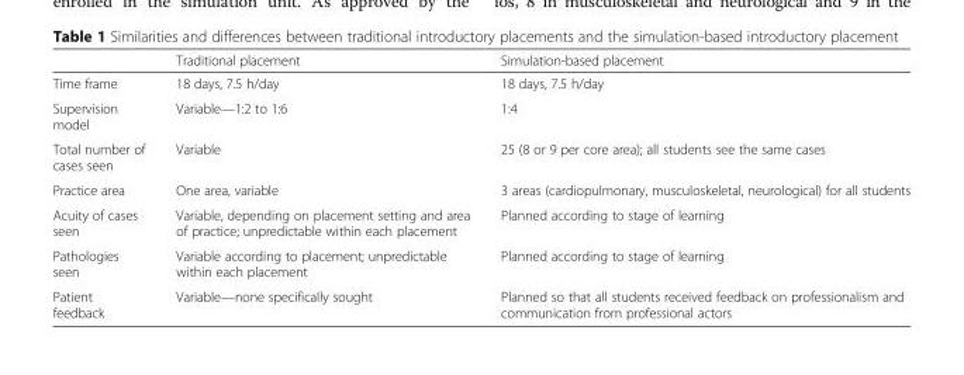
<table><thead><tr><td></td><td>Traditional placement</td><td>Simulation-based placement</td></tr></thead><tbody><tr><td>Time frame</td><td>18 days, 7.5 h/day</td><td>18 days, 7.5 h/day</td></tr><tr><td>Supervision model</td><td>Variable—1:2 to 1:6</td><td>1:4</td></tr><tr><td>Total number of cases seen</td><td>Variable</td><td>25 (8 or 9 per core area); all students see the same cases</td></tr><tr><td>Practice area</td><td>One area, variable</td><td>3 areas (cardiopulmonary, musculoskeletal, neurological) for all students</td></tr><tr><td>Acuity of cases seen</td><td>Variable, depending on placement setting and area of practice; unpredictable within each placement</td><td>Planned according to stage of learning</td></tr><tr><td>Pathologies seen</td><td>Variable according to placement; unpredictable within each placement</td><td>Planned according to stage of learning</td></tr><tr><td>Patient feedback</td><td>Variable—none specifically sought</td><td>Planned so that all students received feedback on professionalism and communication from professional actors</td></tr></tbody></table>